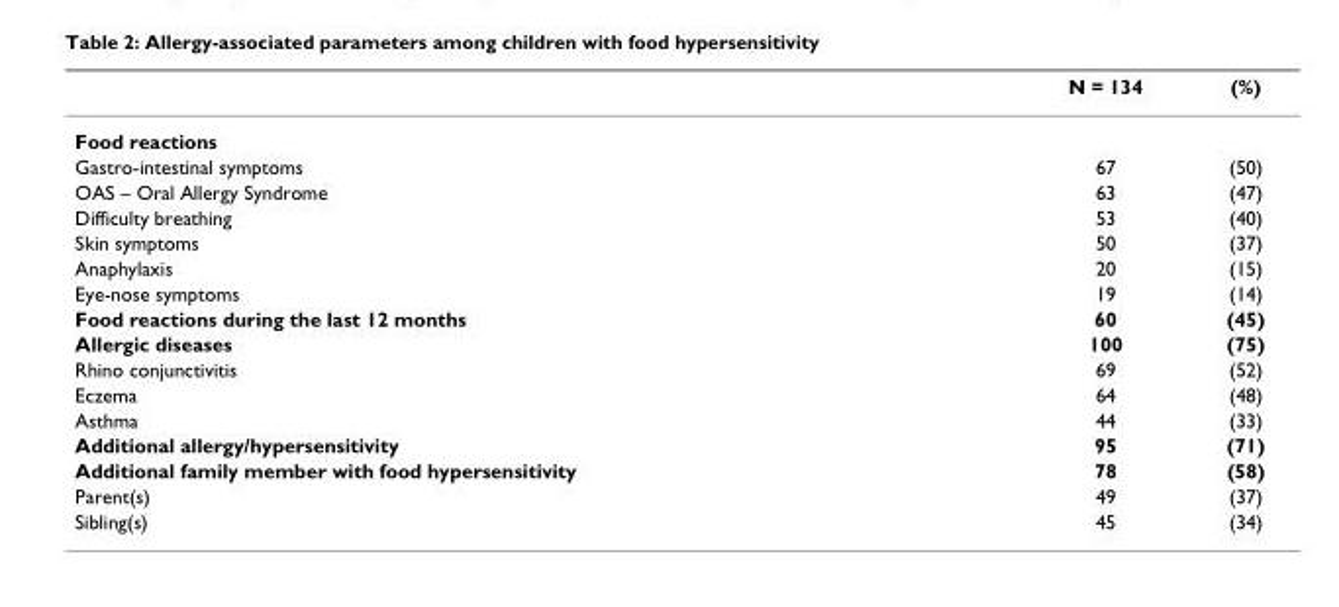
<table><thead><tr><td></td><td>N = 134</td><td>(%)</td></tr></thead><tbody><tr><td colspan="3">Food reactions</td></tr><tr><td>Gastro-intestinal symptoms</td><td>67</td><td>(50)</td></tr><tr><td>OAS – Oral Allergy Syndrome</td><td>63</td><td>(47)</td></tr><tr><td>Difficulty breathing</td><td>53</td><td>(40)</td></tr><tr><td>Skin symptoms</td><td>50</td><td>(37)</td></tr><tr><td>Anaphylaxis</td><td>20</td><td>(15)</td></tr><tr><td>Eye-nose symptoms</td><td>19</td><td>(14)</td></tr><tr><td>Food reactions during the last 12 months</td><td>60</td><td>(45)</td></tr><tr><td>Allergic diseases</td><td>100</td><td>(75)</td></tr><tr><td>Rhino conjunctivitis</td><td>69</td><td>(52)</td></tr><tr><td>Eczema</td><td>64</td><td>(48)</td></tr><tr><td>Asthma</td><td>44</td><td>(33)</td></tr><tr><td>Additional allergy/hypersensitivity</td><td>95</td><td>(71)</td></tr><tr><td>Additional family member with food hypersensitivity</td><td>78</td><td>(58)</td></tr><tr><td>Parent(s)</td><td>49</td><td>(37)</td></tr><tr><td>Sibling(s)</td><td>45</td><td>(34)</td></tr></tbody></table>